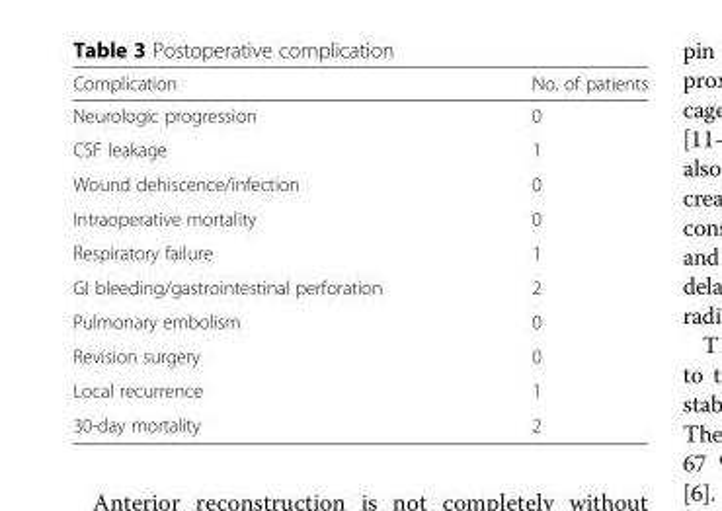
<table><thead><tr><td>Complication</td><td>No. of patients</td></tr></thead><tbody><tr><td>Neurologic progression</td><td>0</td></tr><tr><td>CSF leakage</td><td>1</td></tr><tr><td>Wound dehiscence/infection</td><td>0</td></tr><tr><td>Intraoperative mortality</td><td>0</td></tr><tr><td>Respiratory failure</td><td>1</td></tr><tr><td>GI bleeding/gastrointestinal perforation</td><td>2</td></tr><tr><td>Pulmonary embolism</td><td>0</td></tr><tr><td>Revision surgery</td><td>0</td></tr><tr><td>Local recurrence</td><td>1</td></tr><tr><td>30-day mortality</td><td>2</td></tr></tbody></table>